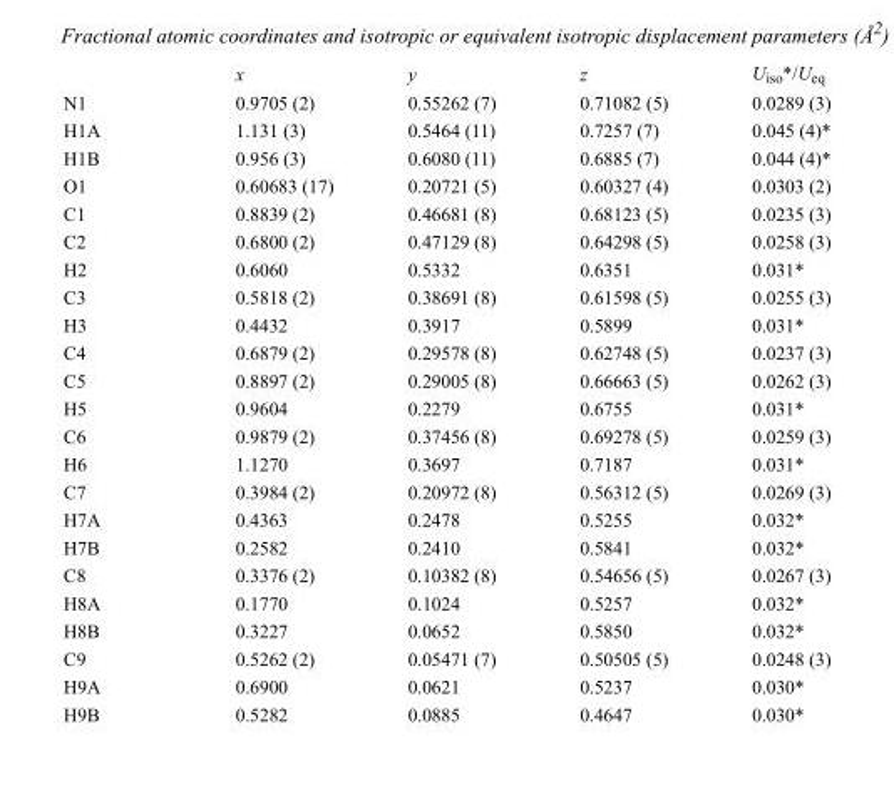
<table><thead><tr><td></td><td>x</td><td>y</td><td>z</td><td>U<sub>iso</sub>*/U<sub>eq</sub></td></tr></thead><tbody><tr><td>N1</td><td>0.9705 (2)</td><td>0.55262 (7)</td><td>0.71082 (5)</td><td>0.0289 (3)</td></tr><tr><td>H1A</td><td>1.131 (3)</td><td>0.5464 (11)</td><td>0.7257 (7)</td><td>0.045 (4)*</td></tr><tr><td>H1B</td><td>0.956 (3)</td><td>0.6080 (11)</td><td>0.6885 (7)</td><td>0.044 (4)*</td></tr><tr><td>O1</td><td>0.60683 (17)</td><td>0.20721 (5)</td><td>0.60327 (4)</td><td>0.0303 (2)</td></tr><tr><td>C1</td><td>0.8839 (2)</td><td>0.46681 (8)</td><td>0.68123 (5)</td><td>0.0235 (3)</td></tr><tr><td>C2</td><td>0.6800 (2)</td><td>0.47129 (8)</td><td>0.64298 (5)</td><td>0.0258 (3)</td></tr><tr><td>H2</td><td>0.6060</td><td>0.5332</td><td>0.6351</td><td>0.031*</td></tr><tr><td>C3</td><td>0.5818 (2)</td><td>0.38691 (8)</td><td>0.61598 (5)</td><td>0.0255 (3)</td></tr><tr><td>H3</td><td>0.4432</td><td>0.3917</td><td>0.5899</td><td>0.031*</td></tr><tr><td>C4</td><td>0.6879 (2)</td><td>0.29578 (8)</td><td>0.62748 (5)</td><td>0.0237 (3)</td></tr><tr><td>C5</td><td>0.8897 (2)</td><td>0.29005 (8)</td><td>0.66663 (5)</td><td>0.0262 (3)</td></tr><tr><td>H5</td><td>0.9604</td><td>0.2279</td><td>0.6755</td><td>0.031*</td></tr><tr><td>C6</td><td>0.9879 (2)</td><td>0.37456 (8)</td><td>0.69278 (5)</td><td>0.0259 (3)</td></tr><tr><td>H6</td><td>1.1270</td><td>0.3697</td><td>0.7187</td><td>0.031*</td></tr><tr><td>C7</td><td>0.3984 (2)</td><td>0.20972 (8)</td><td>0.56312 (5)</td><td>0.0269 (3)</td></tr><tr><td>H7A</td><td>0.4363</td><td>0.2478</td><td>0.5255</td><td>0.032*</td></tr><tr><td>H7B</td><td>0.2582</td><td>0.2410</td><td>0.5841</td><td>0.032*</td></tr><tr><td>C8</td><td>0.3376 (2)</td><td>0.10382 (8)</td><td>0.54656 (5)</td><td>0.0267 (3)</td></tr><tr><td>H8A</td><td>0.1770</td><td>0.1024</td><td>0.5257</td><td>0.032*</td></tr><tr><td>H8B</td><td>0.3227</td><td>0.0652</td><td>0.5850</td><td>0.032*</td></tr><tr><td>C9</td><td>0.5262 (2)</td><td>0.05471 (7)</td><td>0.50505 (5)</td><td>0.0248 (3)</td></tr><tr><td>H9A</td><td>0.6900</td><td>0.0621</td><td>0.5237</td><td>0.030*</td></tr><tr><td>H9B</td><td>0.5282</td><td>0.0885</td><td>0.4647</td><td>0.030*</td></tr></tbody></table>